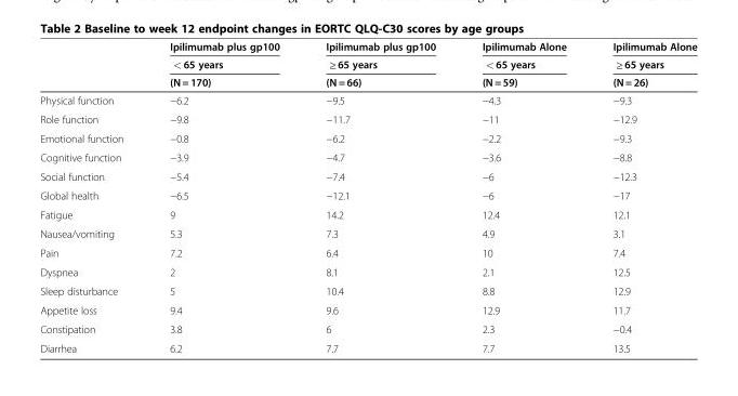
<table><thead><tr><td rowspan="3"></td><td rowspan="3">Ipilimumab plus gp100 &lt; 65 years (N = 170)</td><td rowspan="3">Ipilimumab plus gp100 ≥ 65 years (N = 66)</td><td rowspan="3">Ipilimumab Alone &lt; 65 years (N = 59)</td><td rowspan="3">Ipilimumab Alone ≥ 65 years (N = 26)</td></tr><tr></tr><tr></tr></thead><tbody><tr><td>Physical function</td><td>−6.2</td><td>−9.5</td><td>−4.3</td><td>−9.3</td></tr><tr><td>Role function</td><td>−9.8</td><td>−11.7</td><td>−11</td><td>−12.9</td></tr><tr><td>Emotional function</td><td>−0.8</td><td>−6.2</td><td>−2.2</td><td>−9.3</td></tr><tr><td>Cognitive function</td><td>−3.9</td><td>−4.7</td><td>−3.6</td><td>−8.8</td></tr><tr><td>Social function</td><td>−5.4</td><td>−7.4</td><td>−6</td><td>−12.3</td></tr><tr><td>Global health</td><td>−6.5</td><td>−12.1</td><td>−6</td><td>−17</td></tr><tr><td>Fatigue</td><td>9</td><td>14.2</td><td>12.4</td><td>12.1</td></tr><tr><td>Nausea/vomiting</td><td>5.3</td><td>7.3</td><td>4.9</td><td>3.1</td></tr><tr><td>Pain</td><td>7.2</td><td>6.4</td><td>10</td><td>7.4</td></tr><tr><td>Dyspnea</td><td>2</td><td>8.1</td><td>2.1</td><td>12.5</td></tr><tr><td>Sleep disturbance</td><td>5</td><td>10.4</td><td>8.8</td><td>12.9</td></tr><tr><td>Appetite loss</td><td>9.4</td><td>9.6</td><td>12.9</td><td>11.7</td></tr><tr><td>Constipation</td><td>3.8</td><td>6</td><td>2.3</td><td>−0.4</td></tr><tr><td>Diarrhea</td><td>6.2</td><td>7.7</td><td>7.7</td><td>13.5</td></tr></tbody></table>